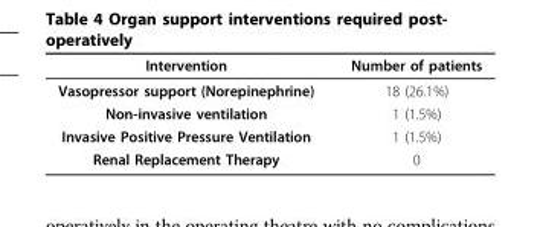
<table><thead><tr><td>Intervention</td><td>Number of patients</td></tr></thead><tbody><tr><td>Vasopressor support (Norepinephrine)</td><td>18 (26.1%)</td></tr><tr><td>Non-invasive ventilation</td><td>1 (1.5%)</td></tr><tr><td>Invasive Positive Pressure Ventilation</td><td>1 (1.5%)</td></tr><tr><td>Renal Replacement Therapy</td><td>0</td></tr></tbody></table>